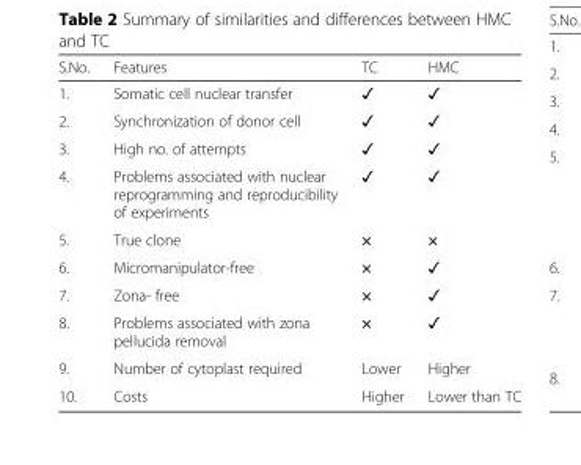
<table><thead><tr><td>S.No.</td><td>Features</td><td>TC</td><td>HMC</td></tr></thead><tbody><tr><td>1.</td><td>Somatic cell nuclear transfer</td><td>✓</td><td>✓</td></tr><tr><td>2.</td><td>Synchronization of donor cell</td><td>✓</td><td>✓</td></tr><tr><td>3.</td><td>High no. of attempts</td><td>✓</td><td>✓</td></tr><tr><td>4.</td><td>Problems associated with nuclear reprogramming and reproducibility of experiments</td><td>✓</td><td>✓</td></tr><tr><td>5.</td><td>True clone</td><td>×</td><td>×</td></tr><tr><td>6.</td><td>Micromanipulator-free</td><td>×</td><td>✓</td></tr><tr><td>7.</td><td>Zona- free</td><td>×</td><td>✓</td></tr><tr><td>8.</td><td>Problems associated with zona pellucida removal</td><td>×</td><td>✓</td></tr><tr><td>9.</td><td>Number of cytoplast required</td><td>Lower</td><td>Higher</td></tr><tr><td>10.</td><td>Costs</td><td>Higher</td><td>Lower than TC</td></tr></tbody></table>